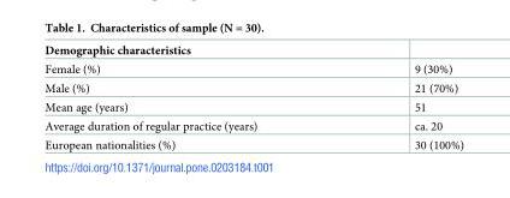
<table><thead><tr><td>Demographic characteristics</td><td></td></tr></thead><tbody><tr><td>Female (%)</td><td>9 (30%)</td></tr><tr><td>Male (%)</td><td>21 (70%)</td></tr><tr><td>Mean age (years)</td><td>51</td></tr><tr><td>Average duration of regular practice (years)</td><td>ca. 20</td></tr><tr><td>European nationalities (%)</td><td>30 (100%)</td></tr></tbody></table>